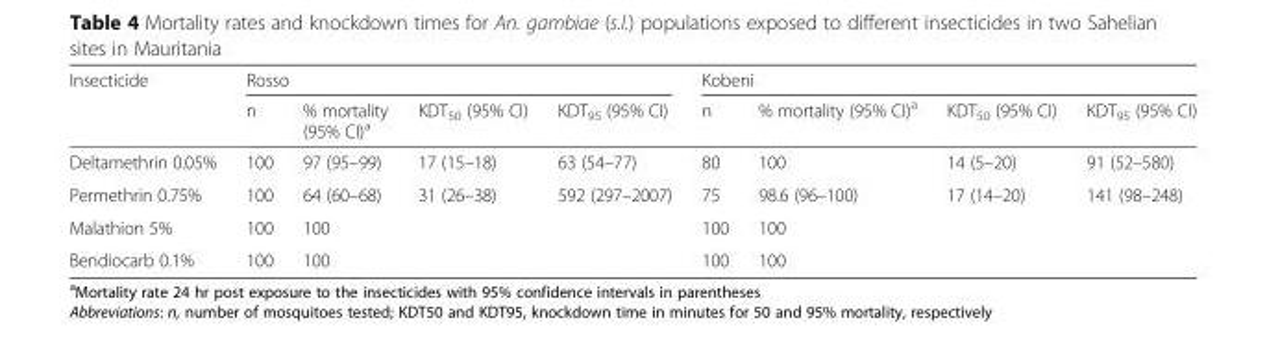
<table><thead><tr><td rowspan="2">Insecticide</td><td colspan="4">Rosso</td><td colspan="4">Kobeni</td></tr><tr><td>n</td><td>% mortality (95% CI)<sup>a</sup></td><td>KDT<sub>50</sub> (95% CI)</td><td>KDT<sub>95</sub> (95% CI)</td><td>n</td><td>% mortality (95% CI)<sup>a</sup></td><td>KDT<sub>50</sub> (95% CI)</td><td>KDT<sub>95</sub> (95% CI)</td></tr></thead><tbody><tr><td>Deltamethrin 0.05%</td><td>100</td><td>97 (95–99)</td><td>17 (15–18)</td><td>63 (54–77)</td><td>80</td><td>100</td><td>14 (5–20)</td><td>91 (52–580)</td></tr><tr><td>Permethrin 0.75%</td><td>100</td><td>64 (60–68)</td><td>31 (26–38)</td><td>592 (297–2007)</td><td>75</td><td>98.6 (96–100)</td><td>17 (14–20)</td><td>141 (98–248)</td></tr><tr><td>Malathion 5%</td><td>100</td><td>100</td><td></td><td></td><td>100</td><td>100</td><td></td><td></td></tr><tr><td>Bendiocarb 0.1%</td><td>100</td><td>100</td><td></td><td></td><td>100</td><td>100</td><td></td><td></td></tr></tbody></table>